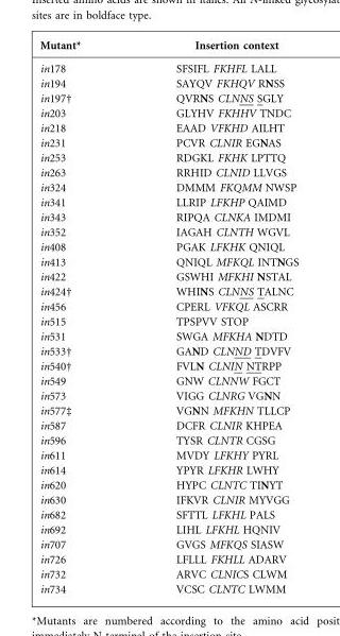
<table><thead><tr><td>Mutant*</td><td>Insertion context</td></tr></thead><tbody><tr><td>in178</td><td>SFSIFL FKHFL LALL</td></tr><tr><td>in194</td><td>SAYQV FKHQV RNSS</td></tr><tr><td>in197†</td><td>QVRNS CLNNS SGLY</td></tr><tr><td>in203</td><td>GLYHV FKHHV TNDC</td></tr><tr><td>in218</td><td>EAAD VFKHD AILHT</td></tr><tr><td>in231</td><td>PCVR CLNIR EGNAS</td></tr><tr><td>in253</td><td>RDGKL FKHK LPTTQ</td></tr><tr><td>in263</td><td>RRHID CLNID LLVGS</td></tr><tr><td>in324</td><td>DMMM FKQMM NWSP</td></tr><tr><td>in341</td><td>LLRIP LFKHP QAIMD</td></tr><tr><td>in343</td><td>RIPQA CLNKA IMDMI</td></tr><tr><td>in352</td><td>IAGAH CLNTH WGVL</td></tr><tr><td>in408</td><td>PGAK LFKHK QNIQL</td></tr><tr><td>in413</td><td>QNIQL MFKQL INTNGS</td></tr><tr><td>in422</td><td>GSWHI MFKHI NSTAL</td></tr><tr><td>in424†</td><td>WHINS CLNNS TALNC</td></tr><tr><td>in456</td><td>CPERL VFKQL ASCRR</td></tr><tr><td>in515</td><td>TPSPVV STOP</td></tr><tr><td>in531</td><td>SWGA MFKHA NDTD</td></tr><tr><td>in533†</td><td>GAND CLNND TDVFV</td></tr><tr><td>in540†</td><td>FVLN CLNIN NTRPP</td></tr><tr><td>in549</td><td>GNW CLNNW FGCT</td></tr><tr><td>in573</td><td>VIGG CLNRG VGNN</td></tr><tr><td>in577‡</td><td>VGNN MFKHN TLLCP</td></tr><tr><td>in587</td><td>DCFR CLNIR KHPEA</td></tr><tr><td>in596</td><td>TYSR CLNTR CGSG</td></tr><tr><td>in611</td><td>MVDY LFKHY PYRL</td></tr><tr><td>in614</td><td>YPYR LFKHR LWHY</td></tr><tr><td>in620</td><td>HYPC CLNTC TINYT</td></tr><tr><td>in630</td><td>IFKVR CLNIR MYVGG</td></tr><tr><td>in682</td><td>SFTTL LFKHL PALS</td></tr><tr><td>in692</td><td>LIHL LFKHL HQNIV</td></tr><tr><td>in707</td><td>GVGS MFKQS SIASW</td></tr><tr><td>in726</td><td>LFLLL FKHLL ADARV</td></tr><tr><td>in732</td><td>ARVC CLNICS CLWM</td></tr><tr><td>in734</td><td>VCSC CLNTC LWMM</td></tr></tbody></table>